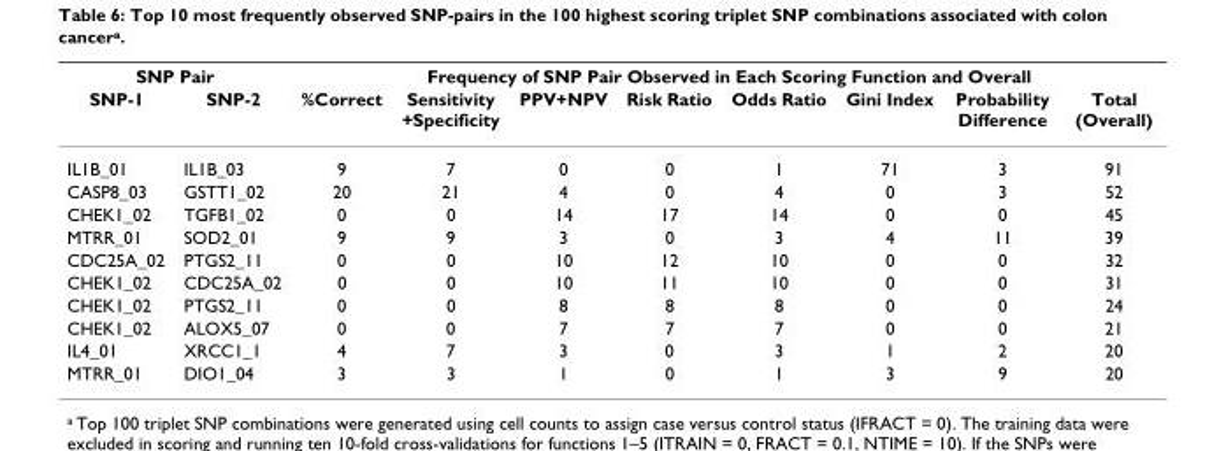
<table><thead><tr><td colspan="2">SNP Pair</td><td colspan="8">Frequency of SNP Pair Observed in Each Scoring Function and Overall</td></tr><tr><td>SNP-1</td><td>SNP-2</td><td>%Correct</td><td>Sensitivity +Specificity</td><td>PPV+NPV</td><td>Risk Ratio</td><td>Odds Ratio</td><td>Gini Index</td><td>Probability Difference</td><td>Total (Overall)</td></tr></thead><tbody><tr><td>IL1B_01</td><td>IL1B_03</td><td>9</td><td>7</td><td>0</td><td>0</td><td>1</td><td>71</td><td>3</td><td>91</td></tr><tr><td>CASP8_03</td><td>GSTT1_02</td><td>20</td><td>21</td><td>4</td><td>0</td><td>4</td><td>0</td><td>3</td><td>52</td></tr><tr><td>CHEK1_02</td><td>TGFB1_02</td><td>0</td><td>0</td><td>14</td><td>17</td><td>14</td><td>0</td><td>0</td><td>45</td></tr><tr><td>MTRR_01</td><td>SOD2_01</td><td>9</td><td>9</td><td>3</td><td>0</td><td>3</td><td>4</td><td>11</td><td>39</td></tr><tr><td>CDC25A_02</td><td>PTGS2_11</td><td>0</td><td>0</td><td>10</td><td>12</td><td>10</td><td>0</td><td>0</td><td>32</td></tr><tr><td>CHEK1_02</td><td>CDC25A_02</td><td>0</td><td>0</td><td>10</td><td>11</td><td>10</td><td>0</td><td>0</td><td>31</td></tr><tr><td>CHEK1_02</td><td>PTGS2_11</td><td>0</td><td>0</td><td>8</td><td>8</td><td>8</td><td>0</td><td>0</td><td>24</td></tr><tr><td>CHEK1_02</td><td>ALOX5_07</td><td>0</td><td>0</td><td>7</td><td>7</td><td>7</td><td>0</td><td>0</td><td>21</td></tr><tr><td>IL4_01</td><td>XRCC1_1</td><td>4</td><td>7</td><td>3</td><td>0</td><td>3</td><td>1</td><td>2</td><td>20</td></tr><tr><td>MTRR_01</td><td>DIO1_04</td><td>3</td><td>3</td><td>1</td><td>0</td><td>1</td><td>3</td><td>9</td><td>20</td></tr></tbody></table>